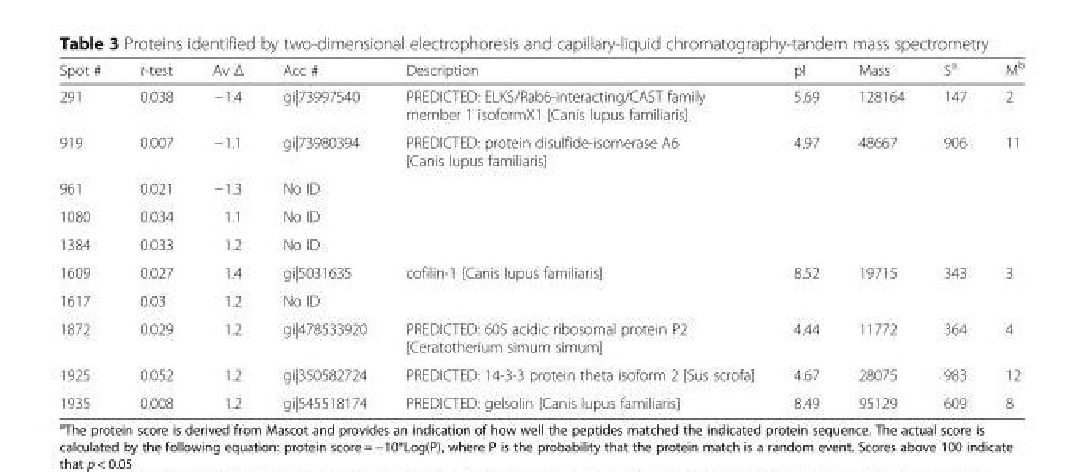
<table><thead><tr><td>Spot #</td><td>t-test</td><td>Av Δ</td><td>Acc #</td><td>Description</td><td>pI</td><td>Mass</td><td>S<sup>a</sup></td><td>M<sup>b</sup></td></tr></thead><tbody><tr><td>291</td><td>0.038</td><td>−1.4</td><td>gi|73997540</td><td>PREDICTED: ELKS/Rab6-interacting/CAST family member 1 isoformX1 [Canis lupus familiaris]</td><td>5.69</td><td>128164</td><td>147</td><td>2</td></tr><tr><td>919</td><td>0.007</td><td>−1.1</td><td>gi|73980394</td><td>PREDICTED: protein disulfide-isomerase A6 [Canis lupus familiaris]</td><td>4.97</td><td>48667</td><td>906</td><td>11</td></tr><tr><td>961</td><td>0.021</td><td>−1.3</td><td>No ID</td><td></td><td></td><td></td><td></td><td></td></tr><tr><td>1080</td><td>0.034</td><td>1.1</td><td>No ID</td><td></td><td></td><td></td><td></td><td></td></tr><tr><td>1384</td><td>0.033</td><td>1.2</td><td>No ID</td><td></td><td></td><td></td><td></td><td></td></tr><tr><td>1609</td><td>0.027</td><td>1.4</td><td>gi|5031635</td><td>cofilin-1 [Canis lupus familiaris]</td><td>8.52</td><td>19715</td><td>343</td><td>3</td></tr><tr><td>1617</td><td>0.03</td><td>1.2</td><td>No ID</td><td></td><td></td><td></td><td></td><td></td></tr><tr><td>1872</td><td>0.029</td><td>1.2</td><td>gi|478533920</td><td>PREDICTED: 60S acidic ribosomal protein P2 [Ceratotherium simum simum]</td><td>4.44</td><td>11772</td><td>364</td><td>4</td></tr><tr><td>1925</td><td>0.052</td><td>1.2</td><td>gi|350582724</td><td>PREDICTED: 14-3-3 protein theta isoform 2 [Sus scrofa]</td><td>4.67</td><td>28075</td><td>983</td><td>12</td></tr><tr><td>1935</td><td>0.008</td><td>1.2</td><td>gi|545518174</td><td>PREDICTED: gelsolin [Canis lupus familiaris]</td><td>8.49</td><td>95129</td><td>609</td><td>8</td></tr></tbody></table>